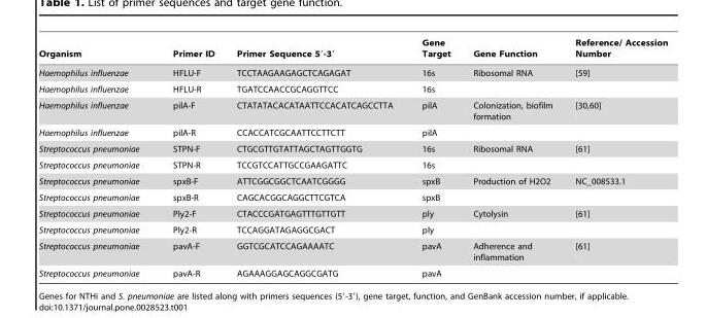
<table><thead><tr><td>Organism</td><td>Primer ID</td><td>Primer Sequence 5′-3′</td><td>Gene Target</td><td>Gene Function</td><td>Reference/ Accession Number</td></tr></thead><tbody><tr><td>Haemophilus influenzae</td><td>HFLU-F</td><td>TCCTAAGAAGAGCTCAGAGAT</td><td>16s</td><td>Ribosomal RNA</td><td>[59]</td></tr><tr><td>Haemophilus influenzae</td><td>HFLU-R</td><td>TGATCCAACCGCAGGTTCC</td><td>16s</td><td></td><td></td></tr><tr><td>Haemophilus influenzae</td><td>pilA-F</td><td>CTATATACACATAATTCCACATCAGCCTTA</td><td>pilA</td><td>Colonization, biofilm formation</td><td>[30,60]</td></tr><tr><td>Haemophilus influenzae</td><td>pilA-R</td><td>CCACCATCGCAATTCCTTCTT</td><td>pilA</td><td></td><td></td></tr><tr><td>Streptococcus pneumoniae</td><td>STPN-F</td><td>CTGCGTTGTATTAGCTAGTTGGTG</td><td>16s</td><td>Ribosomal RNA</td><td>[61]</td></tr><tr><td>Streptococcus pneumoniae</td><td>STPN-R</td><td>TCCGTCCATTGCCGAAGATTC</td><td>16s</td><td></td><td></td></tr><tr><td>Streptococcus pneumoniae</td><td>spxB-F</td><td>ATTCGGCGGCTCAATCGGGG</td><td>spxB</td><td>Production of H2O2</td><td>NC_008533.1</td></tr><tr><td>Streptococcus pneumoniae</td><td>spxB-R</td><td>CAGCACGGCAGGCTTCGTCA</td><td>spxB</td><td></td><td></td></tr><tr><td>Streptococcus pneumoniae</td><td>Ply2-F</td><td>CTACCCGATGAGTTTGTTGTT</td><td>ply</td><td>Cytolysin</td><td>[61]</td></tr><tr><td>Streptococcus pneumoniae</td><td>Ply2-R</td><td>TCCAGGATAGAGGCGACT</td><td>ply</td><td></td><td></td></tr><tr><td>Streptococcus pneumoniae</td><td>pavA-F</td><td>GGTCGCATCCAGAAAATC</td><td>pavA</td><td>Adherence and inflammation</td><td>[61]</td></tr><tr><td>Streptococcus pneumoniae</td><td>pavA-R</td><td>AGAAAGGAGCAGGCGATG</td><td>pavA</td><td></td><td></td></tr></tbody></table>